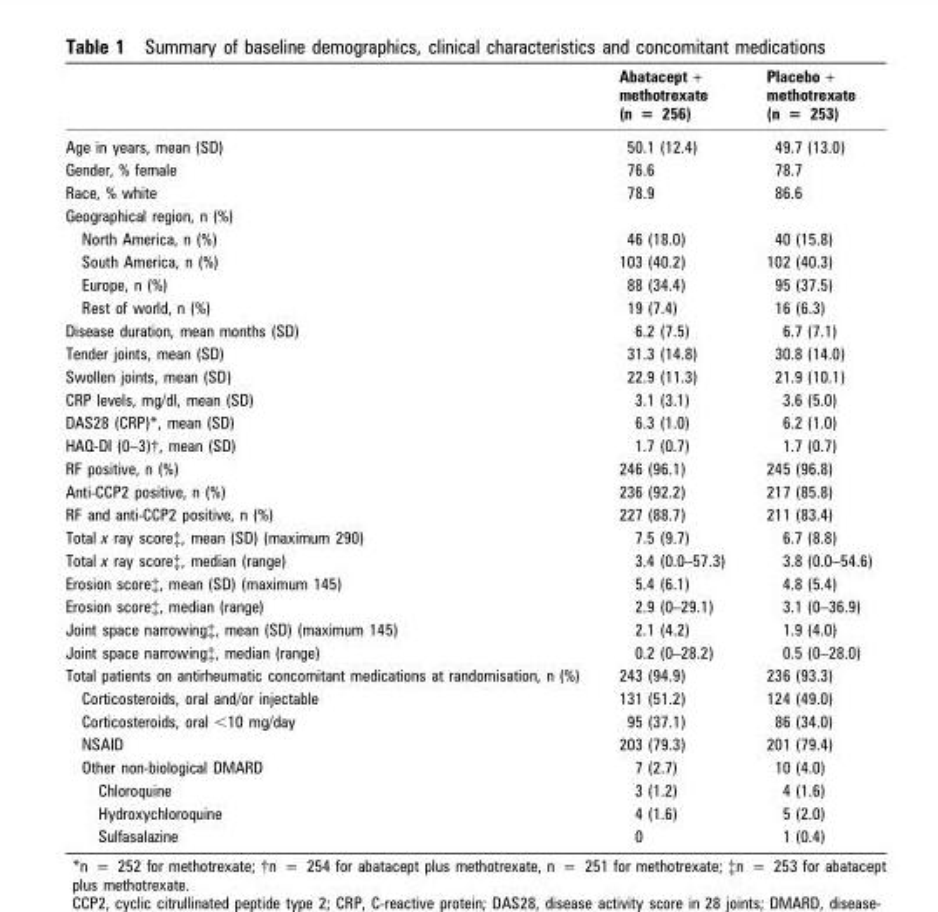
<table><thead><tr><td rowspan="2"></td><td rowspan="2">Abatacept + methotrexate (n = 256)</td><td rowspan="2">Placebo + methotrexate (n = 253)</td></tr><tr></tr></thead><tbody><tr><td>Age in years, mean (SD)</td><td>50.1 (12.4)</td><td>49.7 (13.0)</td></tr><tr><td>Gender, % female</td><td>76.6</td><td>78.7</td></tr><tr><td>Race, % white</td><td>78.9</td><td>86.6</td></tr><tr><td colspan="3">Geographical region, n (%)</td></tr><tr><td>North America, n (%)</td><td>46 (18.0)</td><td>40 (15.8)</td></tr><tr><td>South America, n (%)</td><td>103 (40.2)</td><td>102 (40.3)</td></tr><tr><td>Europe, n (%)</td><td>88 (34.4)</td><td>95 (37.5)</td></tr><tr><td>Rest of world, n (%)</td><td>19 (7.4)</td><td>16 (6.3)</td></tr><tr><td>Disease duration, mean months (SD)</td><td>6.2 (7.5)</td><td>6.7 (7.1)</td></tr><tr><td>Tender joints, mean (SD)</td><td>31.3 (14.8)</td><td>30.8 (14.0)</td></tr><tr><td>Swollen joints, mean (SD)</td><td>22.9 (11.3)</td><td>21.9 (10.1)</td></tr><tr><td>CRP levels, mg/dl, mean (SD)</td><td>3.1 (3.1)</td><td>3.6 (5.0)</td></tr><tr><td>DAS28 (CRP)*, mean (SD)</td><td>6.3 (1.0)</td><td>6.2 (1.0)</td></tr><tr><td>HAQ-DI (0–3)†, mean (SD)</td><td>1.7 (0.7)</td><td>1.7 (0.7)</td></tr><tr><td>RF positive, n (%)</td><td>246 (96.1)</td><td>245 (96.8)</td></tr><tr><td>Anti-CCP2 positive, n (%)</td><td>236 (92.2)</td><td>217 (85.8)</td></tr><tr><td>RF and anti-CCP2 positive, n (%)</td><td>227 (88.7)</td><td>211 (83.4)</td></tr><tr><td>Total x ray score‡, mean (SD) (maximum 290)</td><td>7.5 (9.7)</td><td>6.7 (8.8)</td></tr><tr><td>Total x ray score‡, median (range)</td><td>3.4 (0.0–57.3)</td><td>3.8 (0.0–54.6)</td></tr><tr><td>Erosion score‡, mean (SD) (maximum 145)</td><td>5.4 (6.1)</td><td>4.8 (5.4)</td></tr><tr><td>Erosion score‡, median (range)</td><td>2.9 (0–29.1)</td><td>3.1 (0–36.9)</td></tr><tr><td>Joint space narrowing‡, mean (SD) (maximum 145)</td><td>2.1 (4.2)</td><td>1.9 (4.0)</td></tr><tr><td>Joint space narrowing‡, median (range)</td><td>0.2 (0–28.2)</td><td>0.5 (0–28.0)</td></tr><tr><td>Total patients on antirheumatic concomitant medications at randomisation, n (%)</td><td>243 (94.9)</td><td>236 (93.3)</td></tr><tr><td>Corticosteroids, oral and/or injectable</td><td>131 (51.2)</td><td>124 (49.0)</td></tr><tr><td>Corticosteroids, oral &lt;10 mg/day</td><td>95 (37.1)</td><td>86 (34.0)</td></tr><tr><td>NSAID</td><td>203 (79.3)</td><td>201 (79.4)</td></tr><tr><td>Other non-biological DMARD</td><td>7 (2.7)</td><td>10 (4.0)</td></tr><tr><td>Chloroquine</td><td>3 (1.2)</td><td>4 (1.6)</td></tr><tr><td>Hydroxychloroquine</td><td>4 (1.6)</td><td>5 (2.0)</td></tr><tr><td>Sulfasalazine</td><td>0</td><td>1 (0.4)</td></tr></tbody></table>